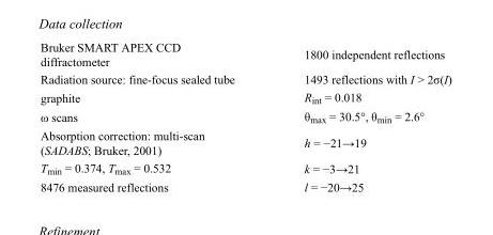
<table><tbody><tr><td>Bruker SMART APEX CCD diffractometer</td><td>1800 independent reflections</td></tr><tr><td>Radiation source: fine-focus sealed tube</td><td>1493 reflections with I &gt; 2σ(I)</td></tr><tr><td>graphite</td><td>R<sub>int</sub> = 0.018</td></tr><tr><td>ω scans</td><td>θ<sub>max</sub> = 30.5°, θ<sub>min</sub> = 2.6°</td></tr><tr><td>Absorption correction: multi-scan (SADABS; Bruker, 2001)</td><td>h = −21→19</td></tr><tr><td>T<sub>min</sub> = 0.374, T<sub>max</sub> = 0.532</td><td>k = −3→21</td></tr><tr><td>8476 measured reflections</td><td>l = −20→25</td></tr></tbody></table>